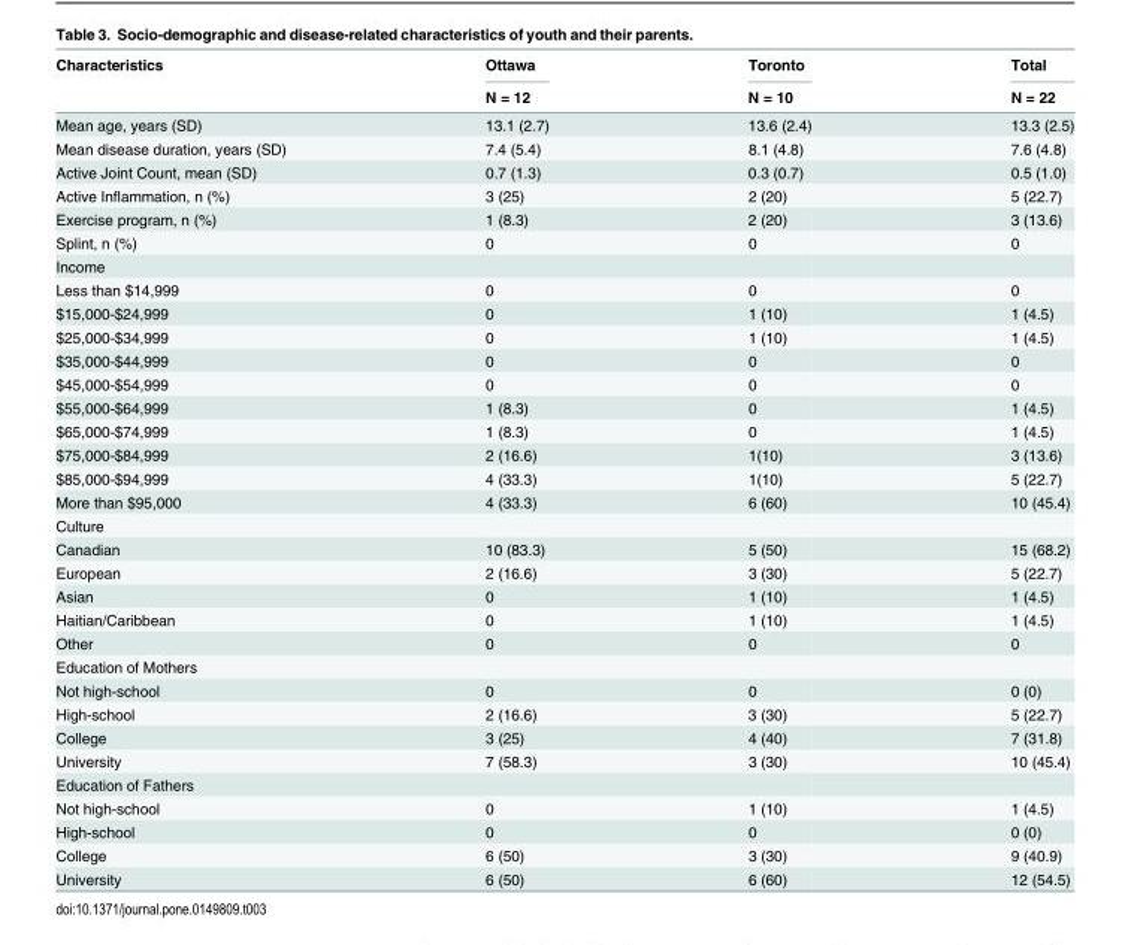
<table><thead><tr><td rowspan="2">Characteristics</td><td rowspan="2">Ottawa N = 12</td><td rowspan="2">Toronto N = 10</td><td rowspan="2">Total N = 22</td></tr><tr></tr></thead><tbody><tr><td>Mean age, years (SD)</td><td>13.1 (2.7)</td><td>13.6 (2.4)</td><td>13.3 (2.5)</td></tr><tr><td>Mean disease duration, years (SD)</td><td>7.4 (5.4)</td><td>8.1 (4.8)</td><td>7.6 (4.8)</td></tr><tr><td>Active Joint Count, mean (SD)</td><td>0.7 (1.3)</td><td>0.3 (0.7)</td><td>0.5 (1.0)</td></tr><tr><td>Active Inflammation, n (%)</td><td>3 (25)</td><td>2 (20)</td><td>5 (22.7)</td></tr><tr><td>Exercise program, n (%)</td><td>1 (8.3)</td><td>2 (20)</td><td>3 (13.6)</td></tr><tr><td>Splint, n (%)</td><td>0</td><td>0</td><td>0</td></tr><tr><td colspan="4">Income</td></tr><tr><td>Less than $14,999</td><td>0</td><td>0</td><td>0</td></tr><tr><td>$15,000-$24,999</td><td>0</td><td>1 (10)</td><td>1 (4.5)</td></tr><tr><td>$25,000-$34,999</td><td>0</td><td>1 (10)</td><td>1 (4.5)</td></tr><tr><td>$35,000-$44,999</td><td>0</td><td>0</td><td>0</td></tr><tr><td>$45,000-$54,999</td><td>0</td><td>0</td><td>0</td></tr><tr><td>$55,000-$64,999</td><td>1 (8.3)</td><td>0</td><td>1 (4.5)</td></tr><tr><td>$65,000-$74,999</td><td>1 (8.3)</td><td>0</td><td>1 (4.5)</td></tr><tr><td>$75,000-$84,999</td><td>2 (16.6)</td><td>1(10)</td><td>3 (13.6)</td></tr><tr><td>$85,000-$94,999</td><td>4 (33.3)</td><td>1(10)</td><td>5 (22.7)</td></tr><tr><td>More than $95,000</td><td>4 (33.3)</td><td>6 (60)</td><td>10 (45.4)</td></tr><tr><td colspan="4">Culture</td></tr><tr><td>Canadian</td><td>10 (83.3)</td><td>5 (50)</td><td>15 (68.2)</td></tr><tr><td>European</td><td>2 (16.6)</td><td>3 (30)</td><td>5 (22.7)</td></tr><tr><td>Asian</td><td>0</td><td>1 (10)</td><td>1 (4.5)</td></tr><tr><td>Haitian/Caribbean</td><td>0</td><td>1 (10)</td><td>1 (4.5)</td></tr><tr><td>Other</td><td>0</td><td>0</td><td>0</td></tr><tr><td colspan="4">Education of Mothers</td></tr><tr><td>Not high-school</td><td>0</td><td>0</td><td>0 (0)</td></tr><tr><td>High-school</td><td>2 (16.6)</td><td>3 (30)</td><td>5 (22.7)</td></tr><tr><td>College</td><td>3 (25)</td><td>4 (40)</td><td>7 (31.8)</td></tr><tr><td>University</td><td>7 (58.3)</td><td>3 (30)</td><td>10 (45.4)</td></tr><tr><td colspan="4">Education of Fathers</td></tr><tr><td>Not high-school</td><td>0</td><td>1 (10)</td><td>1 (4.5)</td></tr><tr><td>High-school</td><td>0</td><td>0</td><td>0 (0)</td></tr><tr><td>College</td><td>6 (50)</td><td>3 (30)</td><td>9 (40.9)</td></tr><tr><td>University</td><td>6 (50)</td><td>6 (60)</td><td>12 (54.5)</td></tr></tbody></table>